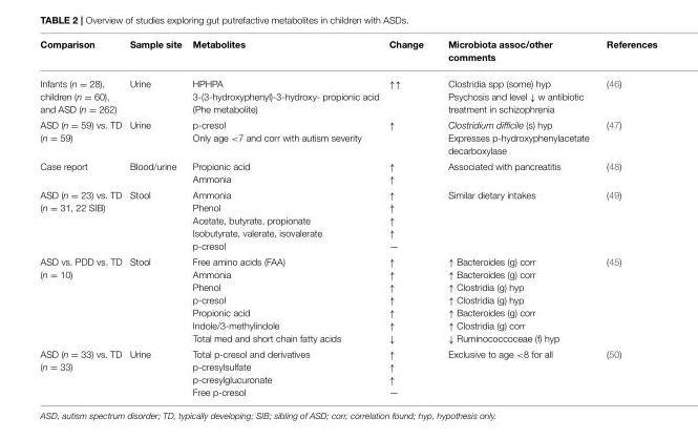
<table><thead><tr><td>Comparison</td><td>Sample site</td><td>Metabolites</td><td>Change</td><td>Microbiota assoc/other comments</td><td>References</td></tr></thead><tbody><tr><td>Infants (n = 28), children (n = 60), and ASD (n = 262)</td><td>Urine</td><td>HPHPA 3-(3-hydroxyphenyl)-3-hydroxy- propionic acid (Phe metabolite)</td><td>↑↑</td><td>Clostridia spp (some) hyp Psychosis and level ↓ w antibiotic treatment in schizophrenia</td><td>(46)</td></tr><tr><td>ASD (n = 59) vs. TD (n = 59)</td><td>Urine</td><td>p-cresol Only age &lt;7 and corr with autism severity</td><td>↑</td><td>Clostridium difficile (s) hyp Expresses p-hydroxyphenylacetate decarboxylase</td><td>(47)</td></tr><tr><td>Case report</td><td>Blood/urine</td><td>Propionic acid Ammonia</td><td>↑ ↑</td><td>Associated with pancreatitis</td><td>(48)</td></tr><tr><td>ASD (n = 23) vs. TD (n = 31, 22 SIB)</td><td>Stool</td><td>Ammonia Phenol Acetate, butyrate, propionate Isobutyrate, valerate, isovalerate p-cresol</td><td>↑ ↑ ↑ ↑ —</td><td>Similar dietary intakes</td><td>(49)</td></tr><tr><td>ASD vs. PDD vs. TD (n = 10)</td><td>Stool</td><td>Free amino acids (FAA) Ammonia Phenol p-cresol Propionic acid Indole/3-methylindole Total med and short chain fatty acids</td><td>↑ ↑ ↑ ↑ ↑ ↑ ↓</td><td>↑ Bacteroides (g) corr ↑ Bacteroides (g) corr ↑ Clostridia (g) hyp ↑ Clostridia (g) hyp ↑ Bacteroides (g) corr ↑ Clostridia (g) corr ↓ Ruminococcoceae (f) hyp</td><td>(45)</td></tr><tr><td>ASD (n = 33) vs. TD (n = 33)</td><td>Urine</td><td>Total p-cresol and derivatives p-cresylsulfate p-cresylglucuronate Free p-cresol</td><td>↑ ↑ ↑ —</td><td>Exclusive to age &lt;8 for all</td><td>(50)</td></tr></tbody></table>